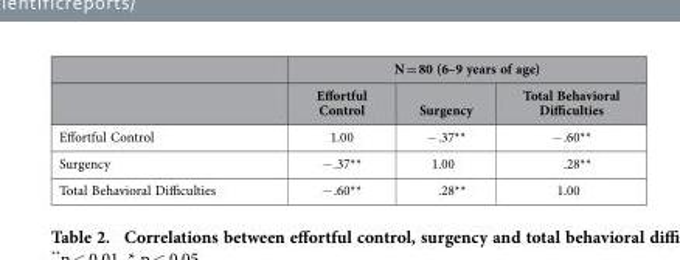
<table><thead><tr><td rowspan="2"></td><td colspan="3">N = 80 (6–9 years of age)</td></tr><tr><td>Effortful Control</td><td>Surgency</td><td>Total Behavioral Difficulties</td></tr></thead><tbody><tr><td>Effortful Control</td><td>1.00</td><td>− .37**</td><td>− .60**</td></tr><tr><td>Surgency</td><td>− .37**</td><td>1.00</td><td>.28**</td></tr><tr><td>Total Behavioral Difficulties</td><td>− .60**</td><td>.28**</td><td>1.00</td></tr></tbody></table>